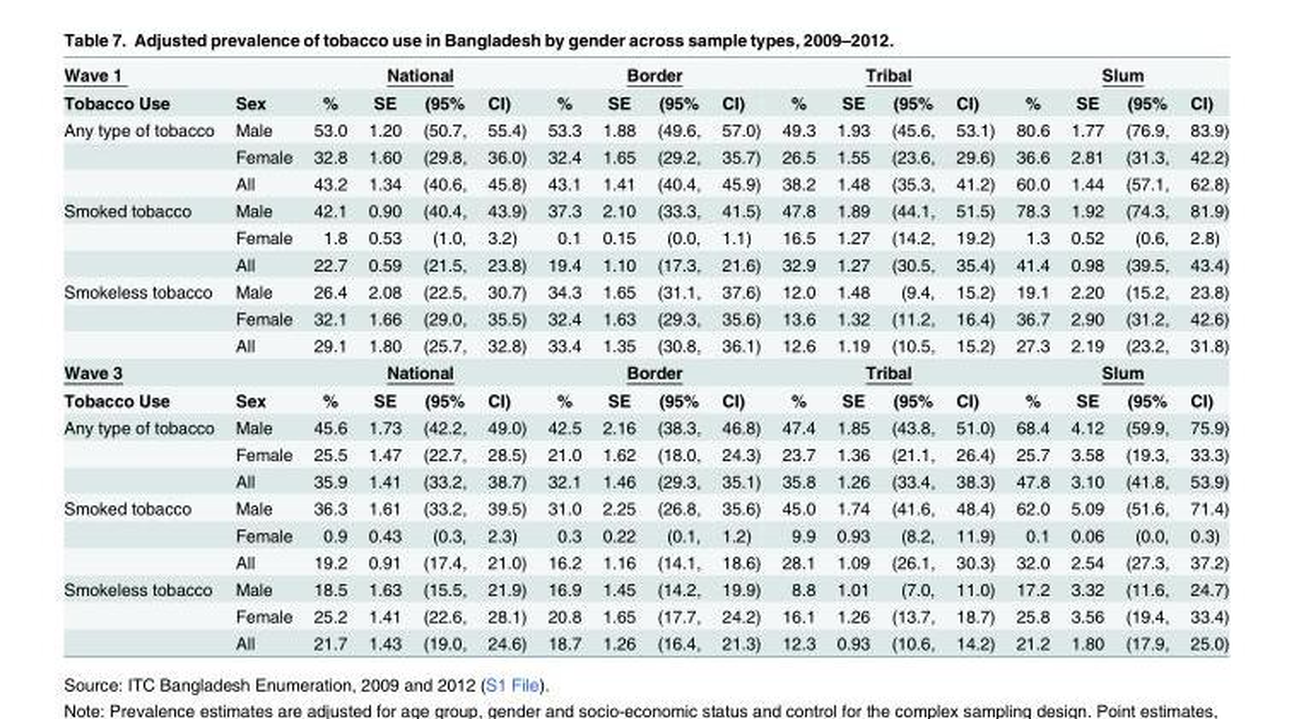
<table><tbody><tr><td colspan="2">Wave 1</td><td colspan="4">National</td><td colspan="4">Border</td><td colspan="4">Tribal</td><td colspan="4">Slum</td></tr><tr><td>Tobacco Use</td><td>Sex</td><td>%</td><td>SE</td><td>(95%</td><td>CI)</td><td>%</td><td>SE</td><td>(95%</td><td>CI)</td><td>%</td><td>SE</td><td>(95%</td><td>CI)</td><td>%</td><td>SE</td><td>(95%</td><td>CI)</td></tr><tr><td rowspan="3">Any type of tobacco</td><td>Male</td><td>53.0</td><td>1.20</td><td>(50.7,</td><td>55.4)</td><td>53.3</td><td>1.88</td><td>(49.6,</td><td>57.0)</td><td>49.3</td><td>1.93</td><td>(45.6,</td><td>53.1)</td><td>80.6</td><td>1.77</td><td>(76.9,</td><td>83.9)</td></tr><tr><td>Female</td><td>32.8</td><td>1.60</td><td>(29.8,</td><td>36.0)</td><td>32.4</td><td>1.65</td><td>(29.2,</td><td>35.7)</td><td>26.5</td><td>1.55</td><td>(23.6,</td><td>29.6)</td><td>36.6</td><td>2.81</td><td>(31.3,</td><td>42.2)</td></tr><tr><td>All</td><td>43.2</td><td>1.34</td><td>(40.6,</td><td>45.8)</td><td>43.1</td><td>1.41</td><td>(40.4,</td><td>45.9)</td><td>38.2</td><td>1.48</td><td>(35.3,</td><td>41.2)</td><td>60.0</td><td>1.44</td><td>(57.1,</td><td>62.8)</td></tr><tr><td rowspan="3">Smoked tobacco</td><td>Male</td><td>42.1</td><td>0.90</td><td>(40.4,</td><td>43.9)</td><td>37.3</td><td>2.10</td><td>(33.3,</td><td>41.5)</td><td>47.8</td><td>1.89</td><td>(44.1,</td><td>51.5)</td><td>78.3</td><td>1.92</td><td>(74.3,</td><td>81.9)</td></tr><tr><td>Female</td><td>1.8</td><td>0.53</td><td>(1.0,</td><td>3.2)</td><td>0.1</td><td>0.15</td><td>(0.0,</td><td>1.1)</td><td>16.5</td><td>1.27</td><td>(14.2,</td><td>19.2)</td><td>1.3</td><td>0.52</td><td>(0.6,</td><td>2.8)</td></tr><tr><td>All</td><td>22.7</td><td>0.59</td><td>(21.5,</td><td>23.8)</td><td>19.4</td><td>1.10</td><td>(17.3,</td><td>21.6)</td><td>32.9</td><td>1.27</td><td>(30.5,</td><td>35.4)</td><td>41.4</td><td>0.98</td><td>(39.5,</td><td>43.4)</td></tr><tr><td rowspan="3">Smokeless tobacco</td><td>Male</td><td>26.4</td><td>2.08</td><td>(22.5,</td><td>30.7)</td><td>34.3</td><td>1.65</td><td>(31.1,</td><td>37.6)</td><td>12.0</td><td>1.48</td><td>(9.4,</td><td>15.2)</td><td>19.1</td><td>2.20</td><td>(15.2,</td><td>23.8)</td></tr><tr><td>Female</td><td>32.1</td><td>1.66</td><td>(29.0,</td><td>35.5)</td><td>32.4</td><td>1.63</td><td>(29.3,</td><td>35.6)</td><td>13.6</td><td>1.32</td><td>(11.2,</td><td>16.4)</td><td>36.7</td><td>2.90</td><td>(31.2,</td><td>42.6)</td></tr><tr><td>All</td><td>29.1</td><td>1.80</td><td>(25.7,</td><td>32.8)</td><td>33.4</td><td>1.35</td><td>(30.8,</td><td>36.1)</td><td>12.6</td><td>1.19</td><td>(10.5,</td><td>15.2)</td><td>27.3</td><td>2.19</td><td>(23.2,</td><td>31.8)</td></tr><tr><td>Wave 3</td><td></td><td colspan="4">National</td><td colspan="4">Border</td><td colspan="4">Tribal</td><td colspan="4">Slum</td></tr><tr><td>Tobacco Use</td><td>Sex</td><td>%</td><td>SE</td><td>(95%</td><td>CI)</td><td>%</td><td>SE</td><td>(95%</td><td>CI)</td><td>%</td><td>SE</td><td>(95%</td><td>CI)</td><td>%</td><td>SE</td><td>(95%</td><td>CI)</td></tr><tr><td rowspan="3">Any type of tobacco</td><td>Male</td><td>45.6</td><td>1.73</td><td>(42.2,</td><td>49.0)</td><td>42.5</td><td>2.16</td><td>(38.3,</td><td>46.8)</td><td>47.4</td><td>1.85</td><td>(43.8,</td><td>51.0)</td><td>68.4</td><td>4.12</td><td>(59.9,</td><td>75.9)</td></tr><tr><td>Female</td><td>25.5</td><td>1.47</td><td>(22.7,</td><td>28.5)</td><td>21.0</td><td>1.62</td><td>(18.0,</td><td>24.3)</td><td>23.7</td><td>1.36</td><td>(21.1,</td><td>26.4)</td><td>25.7</td><td>3.58</td><td>(19.3,</td><td>33.3)</td></tr><tr><td>All</td><td>35.9</td><td>1.41</td><td>(33.2,</td><td>38.7)</td><td>32.1</td><td>1.46</td><td>(29.3,</td><td>35.1)</td><td>35.8</td><td>1.26</td><td>(33.4,</td><td>38.3)</td><td>47.8</td><td>3.10</td><td>(41.8,</td><td>53.9)</td></tr><tr><td rowspan="3">Smoked tobacco</td><td>Male</td><td>36.3</td><td>1.61</td><td>(33.2,</td><td>39.5)</td><td>31.0</td><td>2.25</td><td>(26.8,</td><td>35.6)</td><td>45.0</td><td>1.74</td><td>(41.6,</td><td>48.4)</td><td>62.0</td><td>5.09</td><td>(51.6,</td><td>71.4)</td></tr><tr><td>Female</td><td>0.9</td><td>0.43</td><td>(0.3,</td><td>2.3)</td><td>0.3</td><td>0.22</td><td>(0.1,</td><td>1.2)</td><td>9.9</td><td>0.93</td><td>(8.2,</td><td>11.9)</td><td>0.1</td><td>0.06</td><td>(0.0,</td><td>0.3)</td></tr><tr><td>All</td><td>19.2</td><td>0.91</td><td>(17.4,</td><td>21.0)</td><td>16.2</td><td>1.16</td><td>(14.1,</td><td>18.6)</td><td>28.1</td><td>1.09</td><td>(26.1,</td><td>30.3)</td><td>32.0</td><td>2.54</td><td>(27.3,</td><td>37.2)</td></tr><tr><td rowspan="3">Smokeless tobacco</td><td>Male</td><td>18.5</td><td>1.63</td><td>(15.5,</td><td>21.9)</td><td>16.9</td><td>1.45</td><td>(14.2,</td><td>19.9)</td><td>8.8</td><td>1.01</td><td>(7.0,</td><td>11.0)</td><td>17.2</td><td>3.32</td><td>(11.6,</td><td>24.7)</td></tr><tr><td>Female</td><td>25.2</td><td>1.41</td><td>(22.6,</td><td>28.1)</td><td>20.8</td><td>1.65</td><td>(17.7,</td><td>24.2)</td><td>16.1</td><td>1.26</td><td>(13.7,</td><td>18.7)</td><td>25.8</td><td>3.56</td><td>(19.4,</td><td>33.4)</td></tr><tr><td>All</td><td>21.7</td><td>1.43</td><td>(19.0,</td><td>24.6)</td><td>18.7</td><td>1.26</td><td>(16.4,</td><td>21.3)</td><td>12.3</td><td>0.93</td><td>(10.6,</td><td>14.2)</td><td>21.2</td><td>1.80</td><td>(17.9,</td><td>25.0)</td></tr></tbody></table>